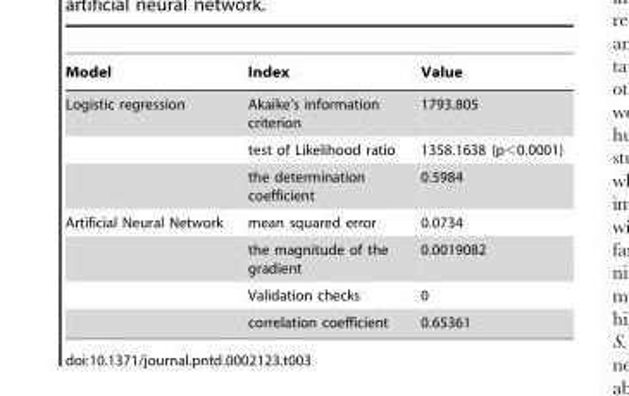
<table><thead><tr><td>Model</td><td>Index</td><td>Value</td></tr></thead><tbody><tr><td rowspan="3">Logistic regression</td><td>Akaike’s information criterion</td><td>1793.805</td></tr><tr><td>test of Likelihood ratio</td><td>1358.1638 (p&lt;0.0001)</td></tr><tr><td>the determination coefficient</td><td>0.5984</td></tr><tr><td rowspan="4">Artificial Neural Network</td><td>mean squared error</td><td>0.0734</td></tr><tr><td>the magnitude of the gradient</td><td>0.0019082</td></tr><tr><td>Validation checks</td><td>0</td></tr><tr><td>correlation coefficient</td><td>0.65361</td></tr></tbody></table>